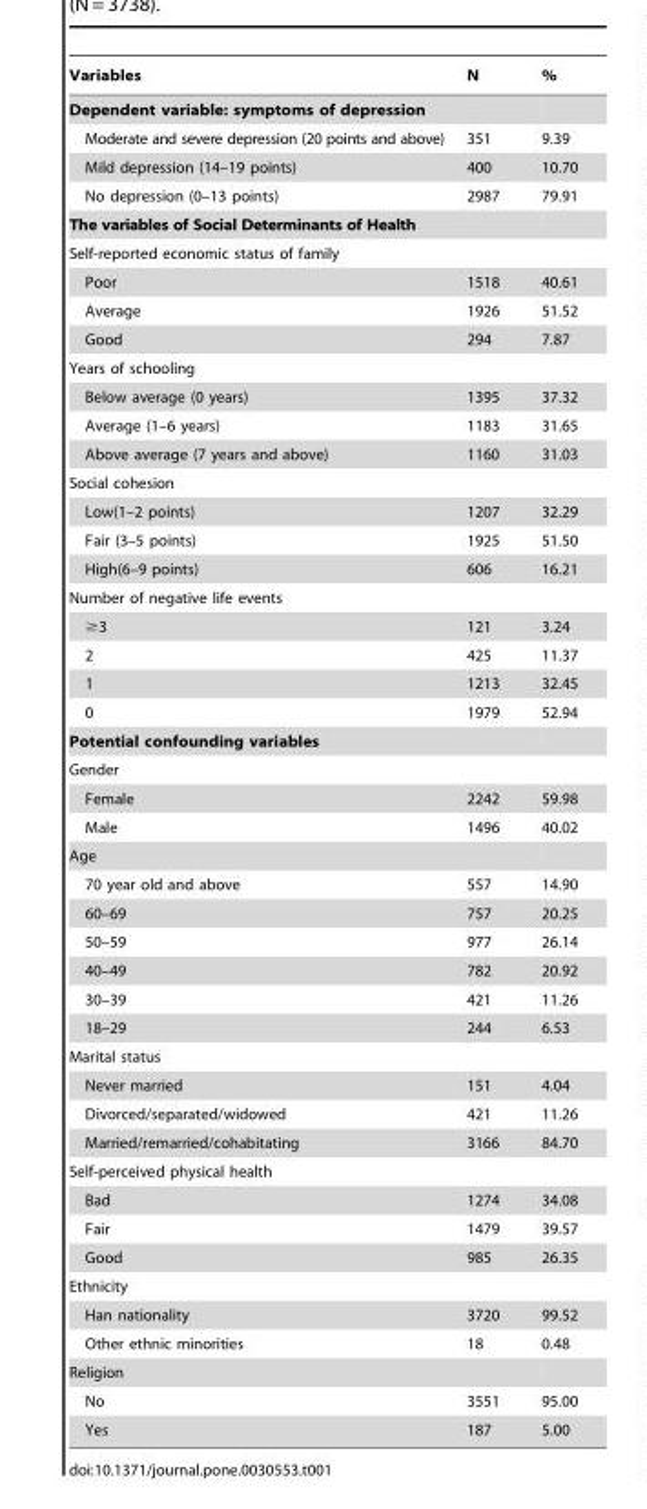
<table><thead><tr><td>Variables</td><td>N</td><td>%</td></tr></thead><tbody><tr><td colspan="3">Dependent variable: symptoms of depression</td></tr><tr><td>Moderate and severe depression (20 points and above)</td><td>351</td><td>9.39</td></tr><tr><td>Mild depression (14–19 points)</td><td>400</td><td>10.70</td></tr><tr><td>No depression (0–13 points)</td><td>2987</td><td>79.91</td></tr><tr><td colspan="3">The variables of Social Determinants of Health</td></tr><tr><td colspan="3">Self-reported economic status of family</td></tr><tr><td>Poor</td><td>1518</td><td>40.61</td></tr><tr><td>Average</td><td>1926</td><td>51.52</td></tr><tr><td>Good</td><td>294</td><td>7.87</td></tr><tr><td colspan="3">Years of schooling</td></tr><tr><td>Below average (0 years)</td><td>1395</td><td>37.32</td></tr><tr><td>Average (1–6 years)</td><td>1183</td><td>31.65</td></tr><tr><td>Above average (7 years and above)</td><td>1160</td><td>31.03</td></tr><tr><td colspan="3">Social cohesion</td></tr><tr><td>Low(1–2 points)</td><td>1207</td><td>32.29</td></tr><tr><td>Fair (3–5 points)</td><td>1925</td><td>51.50</td></tr><tr><td>High(6–9 points)</td><td>606</td><td>16.21</td></tr><tr><td colspan="3">Number of negative life events</td></tr><tr><td>≥3</td><td>121</td><td>3.24</td></tr><tr><td>2</td><td>425</td><td>11.37</td></tr><tr><td>1</td><td>1213</td><td>32.45</td></tr><tr><td>0</td><td>1979</td><td>52.94</td></tr><tr><td colspan="3">Potential confounding variables</td></tr><tr><td colspan="3">Gender</td></tr><tr><td>Female</td><td>2242</td><td>59.98</td></tr><tr><td>Male</td><td>1496</td><td>40.02</td></tr><tr><td colspan="3">Age</td></tr><tr><td>70 year old and above</td><td>557</td><td>14.90</td></tr><tr><td>60–69</td><td>757</td><td>20.25</td></tr><tr><td>50–59</td><td>977</td><td>26.14</td></tr><tr><td>40–49</td><td>782</td><td>20.92</td></tr><tr><td>30–39</td><td>421</td><td>11.26</td></tr><tr><td>18–29</td><td>244</td><td>6.53</td></tr><tr><td colspan="3">Marital status</td></tr><tr><td>Never married</td><td>151</td><td>4.04</td></tr><tr><td>Divorced/separated/widowed</td><td>421</td><td>11.26</td></tr><tr><td>Married/remarried/cohabitating</td><td>3166</td><td>84.70</td></tr><tr><td colspan="3">Self-perceived physical health</td></tr><tr><td>Bad</td><td>1274</td><td>34.08</td></tr><tr><td>Fair</td><td>1479</td><td>39.57</td></tr><tr><td>Good</td><td>985</td><td>26.35</td></tr><tr><td colspan="3">Ethnicity</td></tr><tr><td>Han nationality</td><td>3720</td><td>99.52</td></tr><tr><td>Other ethnic minorities</td><td>18</td><td>0.48</td></tr><tr><td colspan="3">Religion</td></tr><tr><td>No</td><td>3551</td><td>95.00</td></tr><tr><td>Yes</td><td>187</td><td>5.00</td></tr></tbody></table>